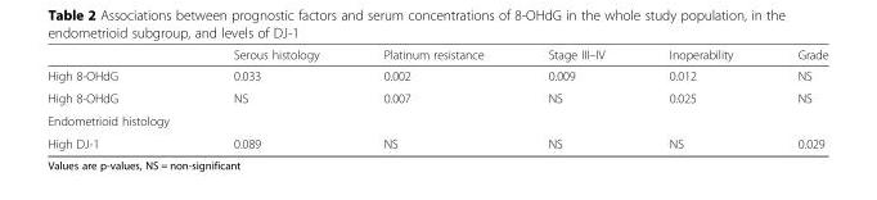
<table><thead><tr><td></td><td>Serous histology</td><td>Platinum resistance</td><td>Stage III–IV</td><td>Inoperability</td><td>Grade</td></tr></thead><tbody><tr><td>High 8-OHdG</td><td>0.033</td><td>0.002</td><td>0.009</td><td>0.012</td><td>NS</td></tr><tr><td>High 8-OHdG</td><td>NS</td><td>0.007</td><td>NS</td><td>0.025</td><td>NS</td></tr><tr><td colspan="6">Endometrioid histology</td></tr><tr><td>High DJ-1</td><td>0.089</td><td>NS</td><td>NS</td><td>NS</td><td>0.029</td></tr></tbody></table>